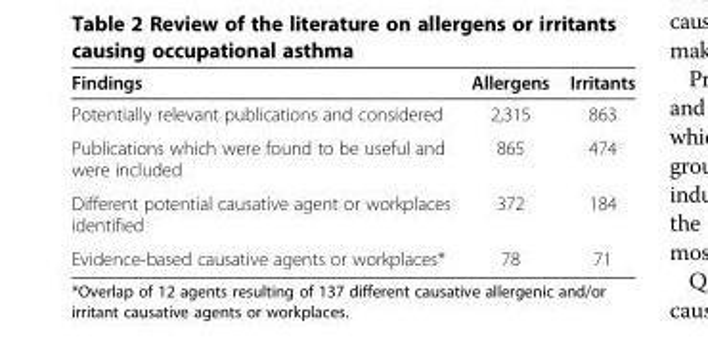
<table><thead><tr><td>Findings</td><td>Allergens</td><td>Irritants</td></tr></thead><tbody><tr><td>Potentially relevant publications and considered</td><td>2,315</td><td>863</td></tr><tr><td>Publications which were found to be useful and were included</td><td>865</td><td>474</td></tr><tr><td>Different potential causative agent or workplaces identified</td><td>372</td><td>184</td></tr><tr><td>Evidence-based causative agents or workplaces*</td><td>78</td><td>71</td></tr></tbody></table>